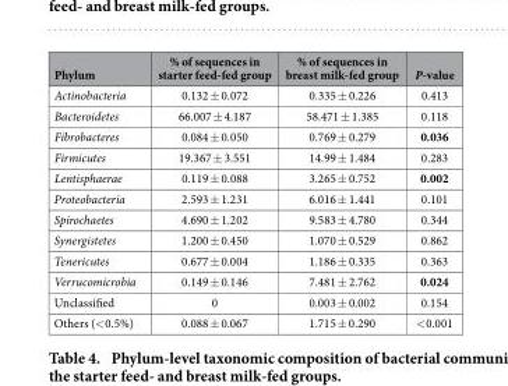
<table><thead><tr><td>Phylum</td><td>% of sequences in starter feed-fed group</td><td>% of sequences in breast milk-fed group</td><td>P-value</td></tr></thead><tbody><tr><td>Actinobacteria</td><td>0.132 ± 0.072</td><td>0.335 ± 0.226</td><td>0.413</td></tr><tr><td>Bacteroidetes</td><td>66.007 ± 4.187</td><td>58.471 ± 1.385</td><td>0.118</td></tr><tr><td>Fibrobacteres</td><td>0.084 ± 0.050</td><td>0.769 ± 0.279</td><td>0.036</td></tr><tr><td>Firmicutes</td><td>19.367 ± 3.551</td><td>14.99 ± 1.484</td><td>0.283</td></tr><tr><td>Lentisphaerae</td><td>0.119 ± 0.088</td><td>3.265 ± 0.752</td><td>0.002</td></tr><tr><td>Proteobacteria</td><td>2.593 ± 1.231</td><td>6.016 ± 1.441</td><td>0.101</td></tr><tr><td>Spirochaetes</td><td>4.690 ± 1.202</td><td>9.583 ± 4.780</td><td>0.344</td></tr><tr><td>Synergistetes</td><td>1.200 ± 0.450</td><td>1.070 ± 0.529</td><td>0.862</td></tr><tr><td>Tenericutes</td><td>0.677 ± 0.004</td><td>1.186 ± 0.335</td><td>0.363</td></tr><tr><td>Verrucomicrobia</td><td>0.149 ± 0.146</td><td>7.481 ± 2.762</td><td>0.024</td></tr><tr><td>Unclassified</td><td>0</td><td>0.003 ± 0.002</td><td>0.154</td></tr><tr><td>Others (&lt; 0.5%)</td><td>0.088 ± 0.067</td><td>1.715 ± 0.290</td><td>&lt; 0.001</td></tr></tbody></table>